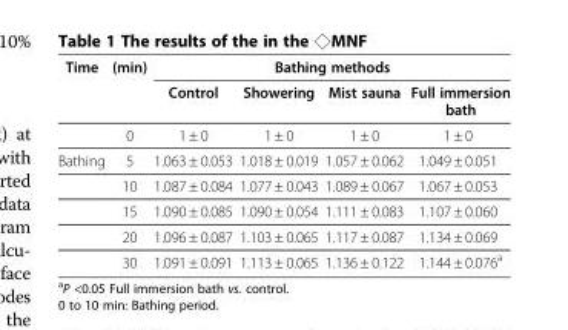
<table><thead><tr><td rowspan="2">Time</td><td rowspan="2">(min)</td><td colspan="4">Bathing methods</td></tr><tr><td>Control</td><td>Showering</td><td>Mist sauna</td><td>Full immersion bath</td></tr></thead><tbody><tr><td></td><td>0</td><td>1 ± 0</td><td>1 ± 0</td><td>1 ± 0</td><td>1 ± 0</td></tr><tr><td rowspan="5">Bathing</td><td>5</td><td>1.063 ± 0.053</td><td>1.018 ± 0.019</td><td>1.057 ± 0.062</td><td>1.049 ± 0.051</td></tr><tr><td>10</td><td>1.087 ± 0.084</td><td>1.077 ± 0.043</td><td>1.089 ± 0.067</td><td>1.067 ± 0.053</td></tr><tr><td>15</td><td>1.090 ± 0.085</td><td>1.090 ± 0.054</td><td>1.111 ± 0.083</td><td>1.107 ± 0.060</td></tr><tr><td>20</td><td>1.096 ± 0.087</td><td>1.103 ± 0.065</td><td>1.117 ± 0.087</td><td>1.134 ± 0.069</td></tr><tr><td>30</td><td>1.091 ± 0.091</td><td>1.113 ± 0.065</td><td>1.136 ± 0.122</td><td>1.144 ± 0.076<sup>a</sup></td></tr></tbody></table>